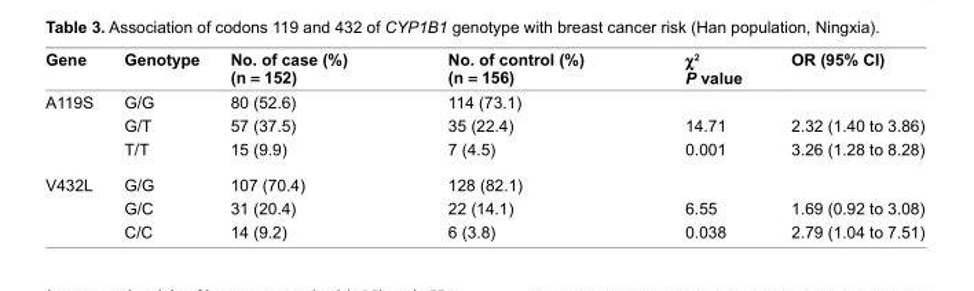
<table><thead><tr><td>Gene</td><td>Genotype</td><td>no. of case (%) (n = 152)</td><td>no. of control (%) (n = 156)</td><td>χ<sup>2</sup> P value</td><td>OR (95% cI)</td></tr></thead><tbody><tr><td rowspan="3">A119s</td><td>g/g</td><td>80 (52.6)</td><td>114 (73.1)</td><td></td><td></td></tr><tr><td>g/T</td><td>57 (37.5)</td><td>35 (22.4)</td><td>14.71</td><td>2.32 (1.40 to 3.86)</td></tr><tr><td>T/T</td><td>15 (9.9)</td><td>7 (4.5)</td><td>0.001</td><td>3.26 (1.28 to 8.28)</td></tr><tr><td rowspan="3">V432L</td><td>g/g</td><td>107 (70.4)</td><td>128 (82.1)</td><td></td><td></td></tr><tr><td>g/c</td><td>31 (20.4)</td><td>22 (14.1)</td><td>6.55</td><td>1.69 (0.92 to 3.08)</td></tr><tr><td>c/c</td><td>14 (9.2)</td><td>6 (3.8)</td><td>0.038</td><td>2.79 (1.04 to 7.51)</td></tr></tbody></table>